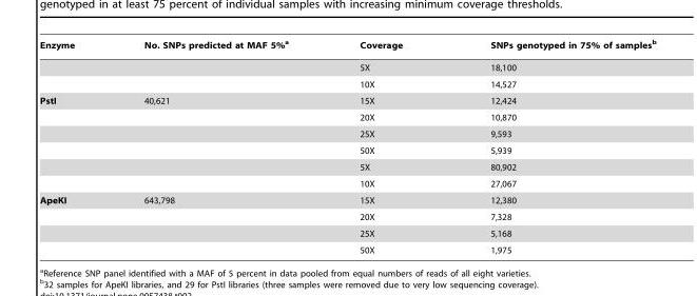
<table><thead><tr><td>Enzyme</td><td>No. SNPs predicted at MAF 5%<sup>a</sup></td><td>Coverage</td><td>SNPs genotyped in 75% of samples<sup>b</sup></td></tr></thead><tbody><tr><td></td><td></td><td>5X</td><td>18,100</td></tr><tr><td></td><td></td><td>10X</td><td>14,527</td></tr><tr><td rowspan="6">PstI</td><td>40,621</td><td>15X</td><td>12,424</td></tr><tr><td></td><td>20X</td><td>10,870</td></tr><tr><td></td><td>25X</td><td>9,593</td></tr><tr><td></td><td>50X</td><td>5,939</td></tr><tr><td></td><td>5X</td><td>80,902</td></tr><tr><td></td><td>10X</td><td>27,067</td></tr><tr><td rowspan="4">ApeKI</td><td>643,798</td><td>15X</td><td>12,380</td></tr><tr><td></td><td>20X</td><td>7,328</td></tr><tr><td></td><td>25X</td><td>5,168</td></tr><tr><td></td><td>50X</td><td>1,975</td></tr></tbody></table>